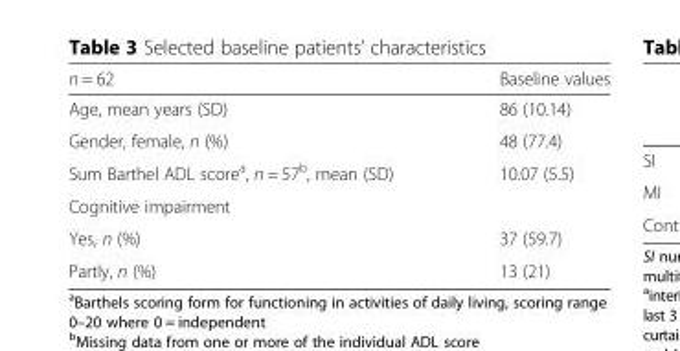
<table><thead><tr><td>n = 62</td><td>Baseline values</td></tr></thead><tbody><tr><td>Age, mean years (SD)</td><td>86 (10.14)</td></tr><tr><td>Gender, female, n (%)</td><td>48 (77.4)</td></tr><tr><td>Sum Barthel ADL score<sup>a</sup>, n = 57<sup>b</sup>, mean (SD)</td><td>10.07 (5.5)</td></tr><tr><td colspan="2">Cognitive impairment</td></tr><tr><td>Yes, n (%)</td><td>37 (59.7)</td></tr><tr><td>Partly, n (%)</td><td>13 (21)</td></tr></tbody></table>